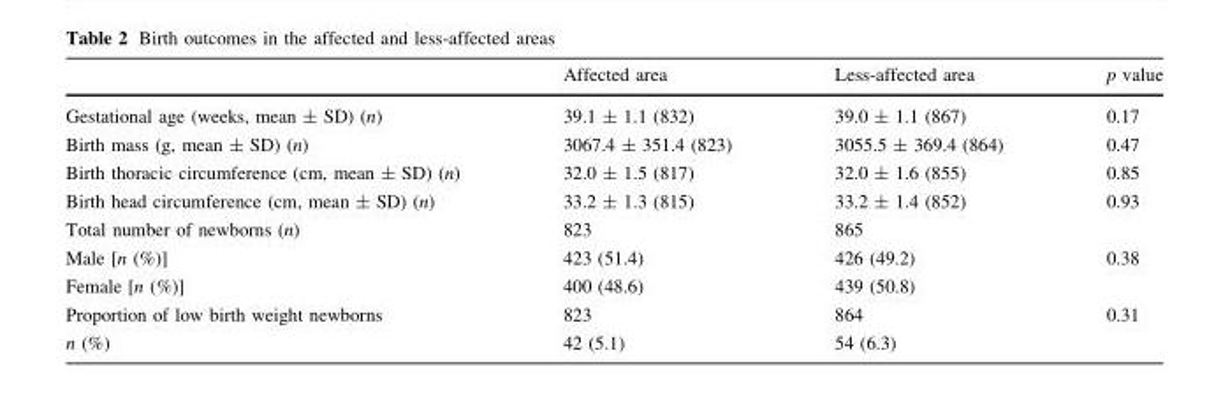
<table><thead><tr><td></td><td>Affected area</td><td>Less-affected area</td><td>p value</td></tr></thead><tbody><tr><td>Gestational age (weeks, mean ± SD) (n)</td><td>39.1 ± 1.1 (832)</td><td>39.0 ± 1.1 (867)</td><td>0.17</td></tr><tr><td>Birth mass (g, mean ± SD) (n)</td><td>3067.4 ± 351.4 (823)</td><td>3055.5 ± 369.4 (864)</td><td>0.47</td></tr><tr><td>Birth thoracic circumference (cm, mean ± SD) (n)</td><td>32.0 ± 1.5 (817)</td><td>32.0 ± 1.6 (855)</td><td>0.85</td></tr><tr><td>Birth head circumference (cm, mean ± SD) (n)</td><td>33.2 ± 1.3 (815)</td><td>33.2 ± 1.4 (852)</td><td>0.93</td></tr><tr><td>Total number of newborns (n)</td><td>823</td><td>865</td><td></td></tr><tr><td>Male [n (%)]</td><td>423 (51.4)</td><td>426 (49.2)</td><td>0.38</td></tr><tr><td>Female [n (%)]</td><td>400 (48.6)</td><td>439 (50.8)</td><td></td></tr><tr><td>Proportion of low birth weight newborns</td><td>823</td><td>864</td><td rowspan="2">0.31</td></tr><tr><td>n (%)</td><td>42 (5.1)</td><td>54 (6.3)</td></tr></tbody></table>